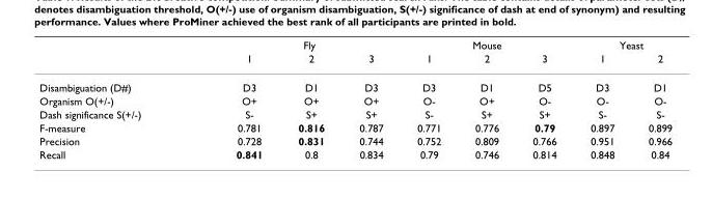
<table><thead><tr><td rowspan="2"></td><td colspan="3">Fly</td><td colspan="3">Mouse</td><td colspan="2">Yeast</td></tr><tr><td>1</td><td>2</td><td>3</td><td>1</td><td>2</td><td>3</td><td>1</td><td>2</td></tr></thead><tbody><tr><td>Disambiguation (D#)</td><td>D3</td><td>D1</td><td>D3</td><td>D3</td><td>D1</td><td>D5</td><td>D3</td><td>D1</td></tr><tr><td>Organism O(+/-)</td><td>O+</td><td>O+</td><td>O+</td><td>O-</td><td>O+</td><td>O-</td><td>O-</td><td>O-</td></tr><tr><td>Dash significance S(+/-)</td><td>S-</td><td>S+</td><td>S+</td><td>S-</td><td>S+</td><td>S+</td><td>S-</td><td>S-</td></tr><tr><td>F-measure</td><td>0.781</td><td>0.816</td><td>0.787</td><td>0.771</td><td>0.776</td><td>0.79</td><td>0.897</td><td>0.899</td></tr><tr><td>Precision</td><td>0.728</td><td>0.831</td><td>0.744</td><td>0.752</td><td>0.809</td><td>0.766</td><td>0.951</td><td>0.966</td></tr><tr><td>Recall</td><td>0.841</td><td>0.8</td><td>0.834</td><td>0.79</td><td>0.746</td><td>0.814</td><td>0.848</td><td>0.84</td></tr></tbody></table>